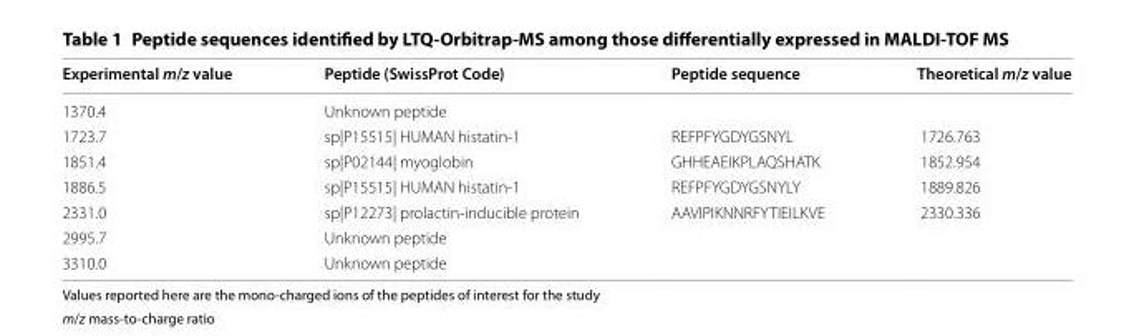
<table><thead><tr><td>Experimental m/z value</td><td>Peptide (SwissProt Code)</td><td>Peptide sequence</td><td>Theoretical m/z value</td></tr></thead><tbody><tr><td>1370.4</td><td>Unknown peptide</td><td></td><td></td></tr><tr><td>1723.7</td><td>sp|P15515| HUMAN histatin-1</td><td>REFPFYGDYGSNYL</td><td>1726.763</td></tr><tr><td>1851.4</td><td>sp|P02144| myoglobin</td><td>GHHEAEIKPLAQSHATK</td><td>1852.954</td></tr><tr><td>1886.5</td><td>sp|P15515| HUMAN histatin-1</td><td>REFPFYGDYGSNYLY</td><td>1889.826</td></tr><tr><td>2331.0</td><td>sp|P12273| prolactin-inducible protein</td><td>AAVIPIKNNRFYTIEILKVE</td><td>2330.336</td></tr><tr><td>2995.7</td><td>Unknown peptide</td><td></td><td></td></tr><tr><td>3310.0</td><td>Unknown peptide</td><td></td><td></td></tr></tbody></table>